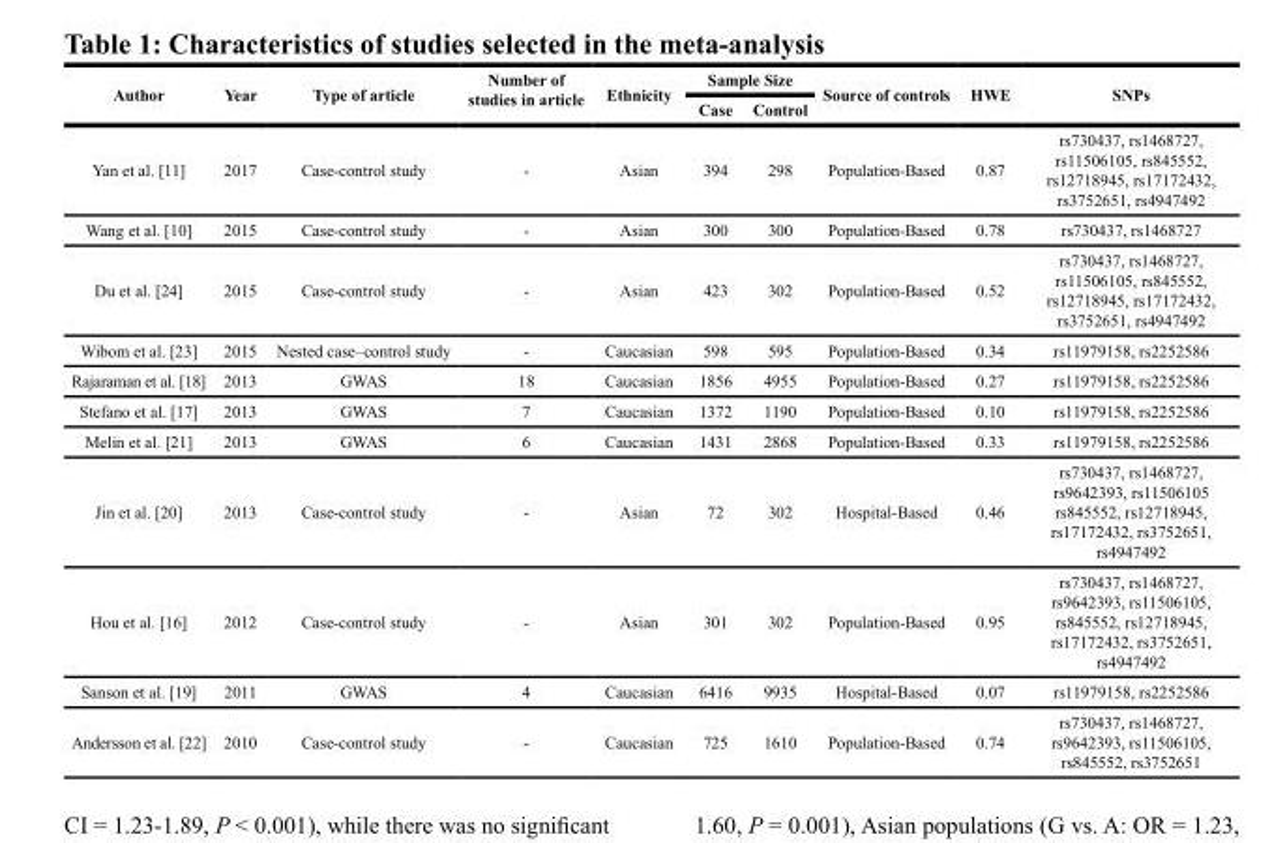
<table><thead><tr><td rowspan="2">Author</td><td rowspan="2">Year</td><td rowspan="2">Type of article</td><td rowspan="2">Number of studies in article</td><td rowspan="2">Ethnicity</td><td colspan="2">Sample Size</td><td rowspan="2">Source of controls</td><td rowspan="2">HWE</td><td rowspan="2">SNPs</td></tr><tr><td>Case</td><td>Control</td></tr></thead><tbody><tr><td>Yan et al. [11]</td><td>2017</td><td>Case-control study</td><td>-</td><td>Asian</td><td>394</td><td>298</td><td>Population-Based</td><td>0.87</td><td>rs730437, rs1468727, rs11506105, rs845552, rs12718945, rs17172432, rs3752651, rs4947492</td></tr><tr><td>Wang et al. [10]</td><td>2015</td><td>Case-control study</td><td>-</td><td>Asian</td><td>300</td><td>300</td><td>Population-Based</td><td>0.78</td><td>rs730437, rs1468727</td></tr><tr><td>Du et al. [24]</td><td>2015</td><td>Case-control study</td><td>-</td><td>Asian</td><td>423</td><td>302</td><td>Population-Based</td><td>0.52</td><td>rs730437, rs1468727, rs11506105, rs845552, rs12718945, rs17172432, rs3752651, rs4947492</td></tr><tr><td>Wibom et al. [23]</td><td>2015</td><td>Nested case–control study</td><td>-</td><td>Caucasian</td><td>598</td><td>595</td><td>Population-Based</td><td>0.34</td><td>rs11979158, rs2252586</td></tr><tr><td>Rajaraman et al. [18]</td><td>2013</td><td>GWAS</td><td>18</td><td>Caucasian</td><td>1856</td><td>4955</td><td>Population-Based</td><td>0.27</td><td>rs11979158, rs2252586</td></tr><tr><td>Stefano et al. [17]</td><td>2013</td><td>GWAS</td><td>7</td><td>Caucasian</td><td>1372</td><td>1190</td><td>Population-Based</td><td>0.10</td><td>rs11979158, rs2252586</td></tr><tr><td>Melin et al. [21]</td><td>2013</td><td>GWAS</td><td>6</td><td>Caucasian</td><td>1431</td><td>2868</td><td>Population-Based</td><td>0.33</td><td>rs11979158, rs2252586</td></tr><tr><td>Jin et al. [20]</td><td>2013</td><td>Case-control study</td><td>-</td><td>Asian</td><td>72</td><td>302</td><td>Hospital-Based</td><td>0.46</td><td>rs730437, rs1468727, rs9642393, rs11506105 rs845552, rs12718945, rs17172432, rs3752651, rs4947492</td></tr><tr><td>Hou et al. [16]</td><td>2012</td><td>Case-control study</td><td>-</td><td>Asian</td><td>301</td><td>302</td><td>Population-Based</td><td>0.95</td><td>rs730437, rs1468727, rs9642393, rs11506105, rs845552, rs12718945, rs17172432, rs3752651, rs4947492</td></tr><tr><td>Sanson et al. [19]</td><td>2011</td><td>GWAS</td><td>4</td><td>Caucasian</td><td>6416</td><td>9935</td><td>Hospital-Based</td><td>0.07</td><td>rs11979158, rs2252586</td></tr><tr><td>Andersson et al. [22]</td><td>2010</td><td>Case-control study</td><td>-</td><td>Caucasian</td><td>725</td><td>1610</td><td>Population-Based</td><td>0.74</td><td>rs730437, rs1468727, rs9642393, rs11506105, rs845552, rs3752651</td></tr></tbody></table>